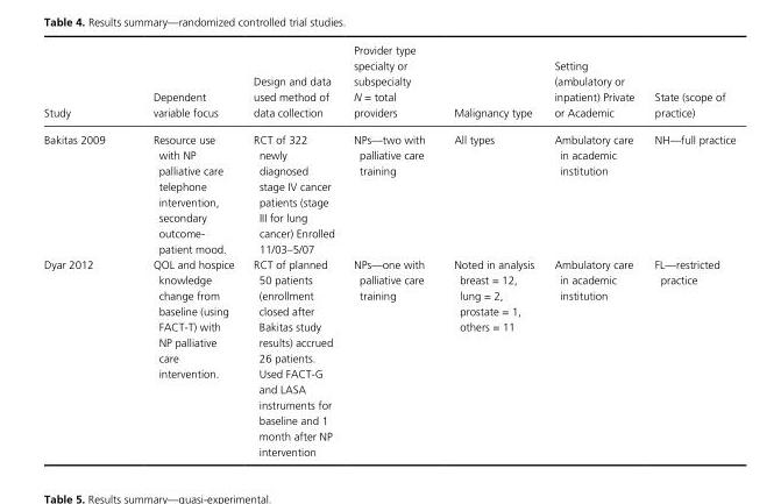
<table><thead><tr><td>Study</td><td>Dependent variable focus</td><td>Design and data used method of data collection</td><td>Provider type specialty or subspecialty N = total providers</td><td>Malignancy type</td><td>Setting (ambulatory or inpatient) Private or Academic</td><td>State (scope of practice)</td></tr></thead><tbody><tr><td>Bakitas 2009</td><td>Resource use with NP palliative care telephone intervention, secondary outcome- patient mood.</td><td>RCT of 322 newly diagnosed stage IV cancer patients (stage III for lung cancer) Enrolled 11/03–5/07</td><td>NPs—two with palliative care training</td><td>All types</td><td>Ambulatory care in academic institution</td><td>NH—full practice</td></tr><tr><td>Dyar 2012</td><td>QOL and hospice knowledge change from baseline (using FACT- T) with NP palliative care intervention.</td><td>RCT of planned 50 patients (enrollment closed after Bakitas study results) accrued 26 patients. Used FACT- G and LASA instruments for baseline and 1 month after NP intervention</td><td>NPs—one with palliative care training</td><td>Noted in analysis breast = 12, lung = 2, prostate = 1, others = 11</td><td>Ambulatory care in academic institution</td><td>FL—restricted practice</td></tr></tbody></table>